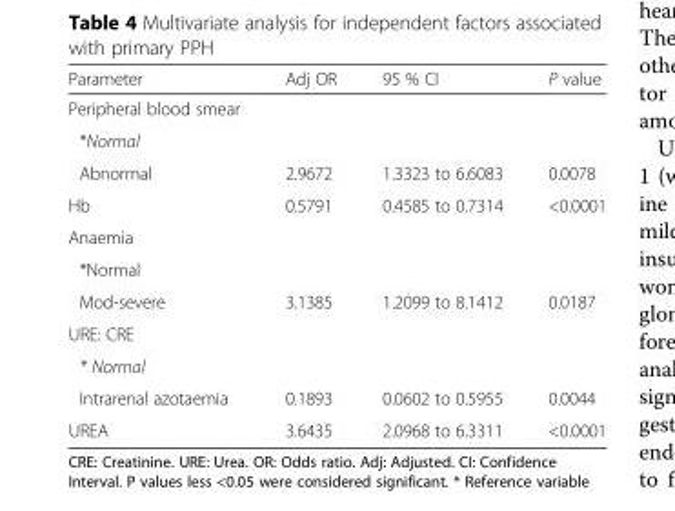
<table><thead><tr><td>Parameter</td><td>Adj OR</td><td>95 % CI</td><td>P value</td></tr></thead><tbody><tr><td colspan="4">Peripheral blood smear</td></tr><tr><td colspan="4">*Normal</td></tr><tr><td>Abnormal</td><td>2.9672</td><td>1.3323 to 6.6083</td><td>0.0078</td></tr><tr><td>Hb</td><td>0.5791</td><td>0.4585 to 0.7314</td><td>&lt;0.0001</td></tr><tr><td colspan="4">Anaemia</td></tr><tr><td colspan="4">*Normal</td></tr><tr><td>Mod-severe</td><td>3.1385</td><td>1.2099 to 8.1412</td><td>0.0187</td></tr><tr><td colspan="4">URE: CRE</td></tr><tr><td colspan="4">* Normal</td></tr><tr><td>Intrarenal azotaemia</td><td>0.1893</td><td>0.0602 to 0.5955</td><td>0.0044</td></tr><tr><td>UREA</td><td>3.6435</td><td>2.0968 to 6.3311</td><td>&lt;0.0001</td></tr></tbody></table>